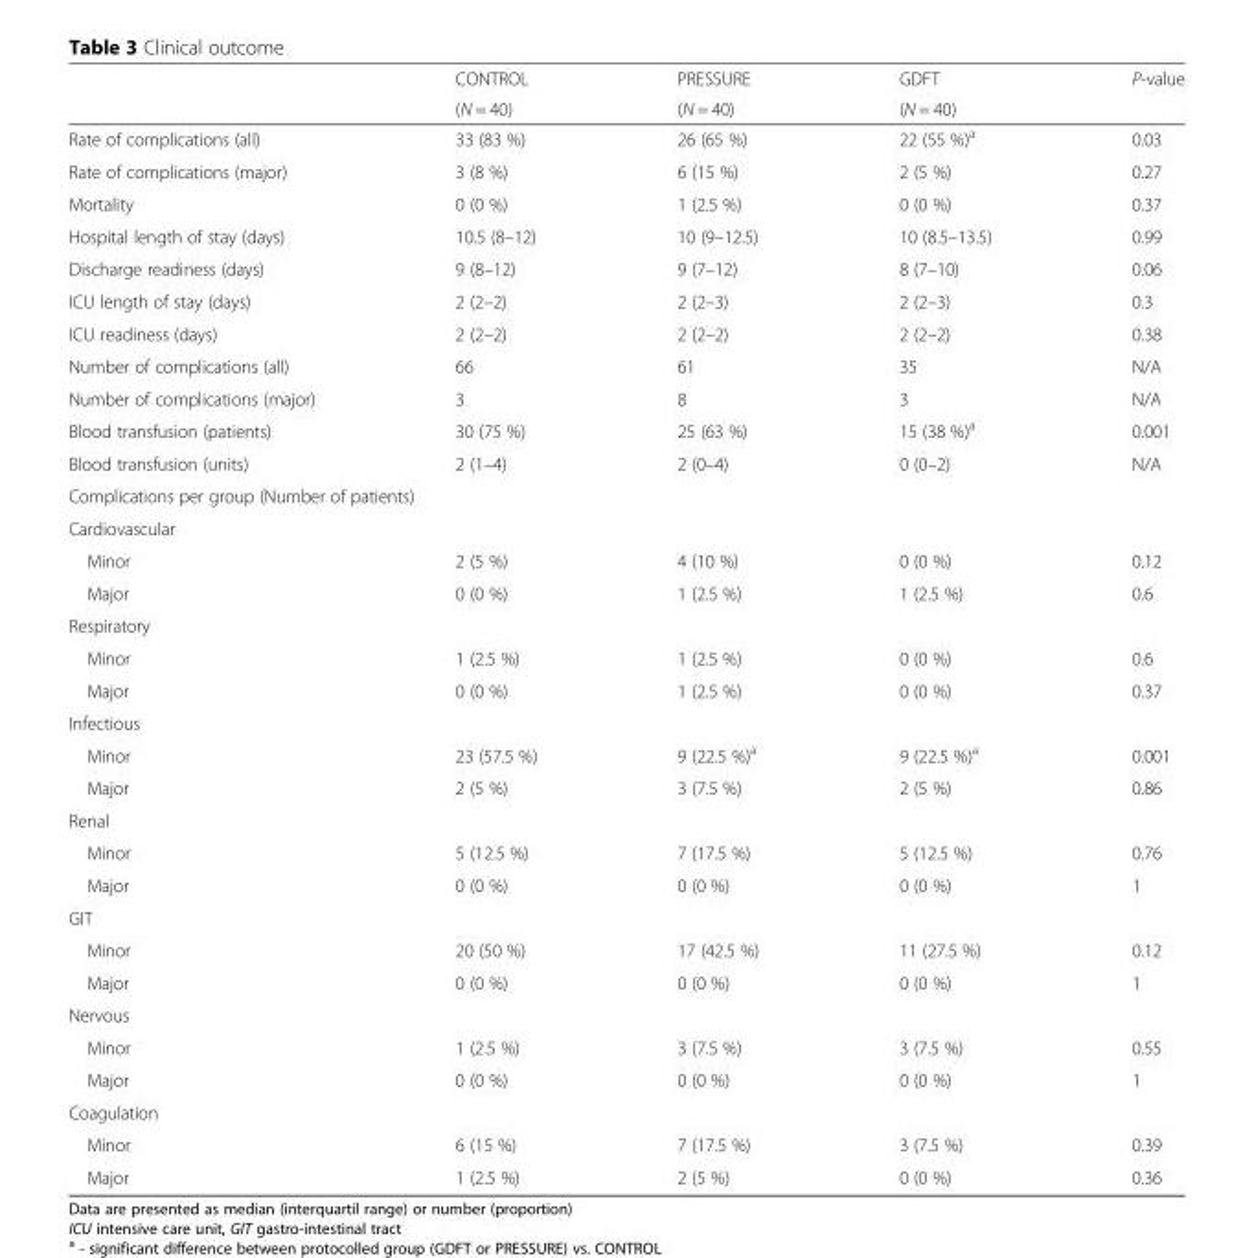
<table><thead><tr><td rowspan="2"></td><td rowspan="2">CONTROL (N = 40)</td><td rowspan="2">PRESSURE (N = 40)</td><td rowspan="2">GDFT (N = 40)</td><td rowspan="2">P-value</td></tr><tr></tr></thead><tbody><tr><td>Rate of complications (all)</td><td>33 (83 %)</td><td>26 (65 %)</td><td>22 (55 %)<sup>a</sup></td><td>0.03</td></tr><tr><td>Rate of complications (major)</td><td>3 (8 %)</td><td>6 (15 %)</td><td>2 (5 %)</td><td>0.27</td></tr><tr><td>Mortality</td><td>0 (0 %)</td><td>1 (2.5 %)</td><td>0 (0 %)</td><td>0.37</td></tr><tr><td>Hospital length of stay (days)</td><td>10.5 (8–12)</td><td>10 (9–12.5)</td><td>10 (8.5–13.5)</td><td>0.99</td></tr><tr><td>Discharge readiness (days)</td><td>9 (8–12)</td><td>9 (7–12)</td><td>8 (7–10)</td><td>0.06</td></tr><tr><td>ICU length of stay (days)</td><td>2 (2–2)</td><td>2 (2–3)</td><td>2 (2–3)</td><td>0.3</td></tr><tr><td>ICU readiness (days)</td><td>2 (2–2)</td><td>2 (2–2)</td><td>2 (2–2)</td><td>0.38</td></tr><tr><td>Number of complications (all)</td><td>66</td><td>61</td><td>35</td><td>N/A</td></tr><tr><td>Number of complications (major)</td><td>3</td><td>8</td><td>3</td><td>N/A</td></tr><tr><td>Blood transfusion (patients)</td><td>30 (75 %)</td><td>25 (63 %)</td><td>15 (38 %)<sup>a</sup></td><td>0.001</td></tr><tr><td>Blood transfusion (units)</td><td>2 (1–4)</td><td>2 (0–4)</td><td>0 (0–2)</td><td>N/A</td></tr><tr><td colspan="5">Complications per group (Number of patients)</td></tr><tr><td colspan="5">Cardiovascular</td></tr><tr><td>Minor</td><td>2 (5 %)</td><td>4 (10 %)</td><td>0 (0 %)</td><td>0.12</td></tr><tr><td>Major</td><td>0 (0 %)</td><td>1 (2.5 %)</td><td>1 (2.5 %)</td><td>0.6</td></tr><tr><td colspan="5">Respiratory</td></tr><tr><td>Minor</td><td>1 (2.5 %)</td><td>1 (2.5 %)</td><td>0 (0 %)</td><td>0.6</td></tr><tr><td>Major</td><td>0 (0 %)</td><td>1 (2.5 %)</td><td>0 (0 %)</td><td>0.37</td></tr><tr><td colspan="5">Infectious</td></tr><tr><td>Minor</td><td>23 (57.5 %)</td><td>9 (22.5 %)<sup>a</sup></td><td>9 (22.5 %)<sup>a</sup></td><td>0.001</td></tr><tr><td>Major</td><td>2 (5 %)</td><td>3 (7.5 %)</td><td>2 (5 %)</td><td>0.86</td></tr><tr><td colspan="5">Renal</td></tr><tr><td>Minor</td><td>5 (12.5 %)</td><td>7 (17.5 %)</td><td>5 (12.5 %)</td><td>0.76</td></tr><tr><td>Major</td><td>0 (0 %)</td><td>0 (0 %)</td><td>0 (0 %)</td><td>1</td></tr><tr><td colspan="5">GIT</td></tr><tr><td>Minor</td><td>20 (50 %)</td><td>17 (42.5 %)</td><td>11 (27.5 %)</td><td>0.12</td></tr><tr><td>Major</td><td>0 (0 %)</td><td>0 (0 %)</td><td>0 (0 %)</td><td>1</td></tr><tr><td colspan="5">Nervous</td></tr><tr><td>Minor</td><td>1 (2.5 %)</td><td>3 (7.5 %)</td><td>3 (7.5 %)</td><td>0.55</td></tr><tr><td>Major</td><td>0 (0 %)</td><td>0 (0 %)</td><td>0 (0 %)</td><td>1</td></tr><tr><td colspan="5">Coagulation</td></tr><tr><td>Minor</td><td>6 (15 %)</td><td>7 (17.5 %)</td><td>3 (7.5 %)</td><td>0.39</td></tr><tr><td>Major</td><td>1 (2.5 %)</td><td>2 (5 %)</td><td>0 (0 %)</td><td>0.36</td></tr></tbody></table>